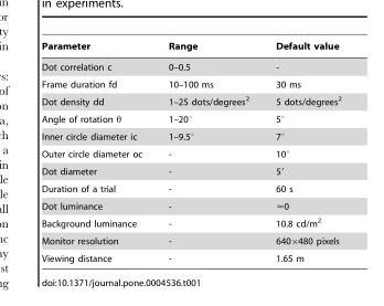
<table><thead><tr><td>Parameter</td><td>Range</td><td>Default value</td></tr></thead><tbody><tr><td>Dot correlation c</td><td>0–0.5</td><td>-</td></tr><tr><td>Frame duration fd</td><td>10–100 ms</td><td>30 ms</td></tr><tr><td>Dot density dd</td><td>1–25 dots/degrees<sup>2</sup></td><td>5 dots/degrees<sup>2</sup></td></tr><tr><td>Angle of rotation θ</td><td>1–20°</td><td>5°</td></tr><tr><td>Inner circle diameter ic</td><td>1–9.5°</td><td>7°</td></tr><tr><td>Outer circle diameter oc</td><td>-</td><td>10°</td></tr><tr><td>Dot diameter</td><td>-</td><td>5′</td></tr><tr><td>Duration of a trial</td><td>-</td><td>60 s</td></tr><tr><td>Dot luminance</td><td>-</td><td>&lt;0</td></tr><tr><td>Background luminance</td><td>-</td><td>10.8 cd/m<sup>2</sup></td></tr><tr><td>Monitor resolution</td><td>-</td><td>640×480 pixels</td></tr><tr><td>Viewing distance</td><td>-</td><td>1.65 m</td></tr></tbody></table>